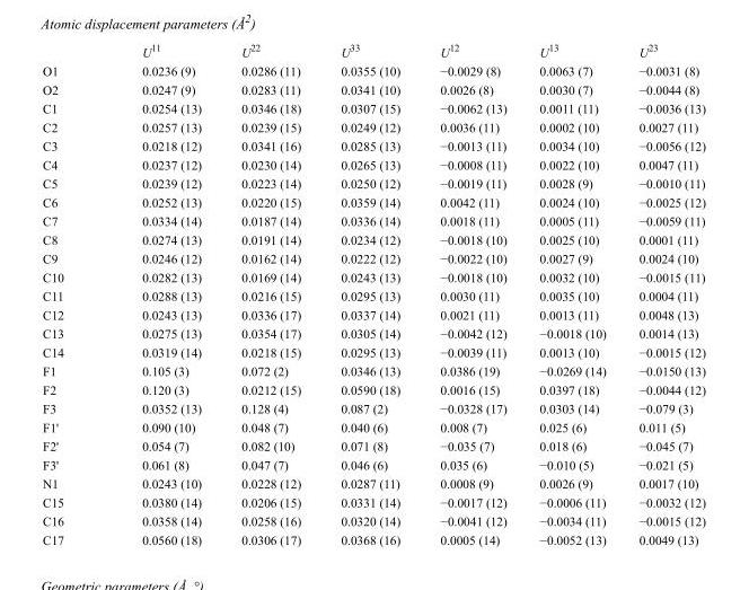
<table><thead><tr><td></td><td>U<sup>11</sup></td><td>U<sup>22</sup></td><td>U<sup>33</sup></td><td>U<sup>12</sup></td><td>U<sup>13</sup></td><td>U<sup>23</sup></td></tr></thead><tbody><tr><td>O1</td><td>0.0236 (9)</td><td>0.0286 (11)</td><td>0.0355 (10)</td><td>−0.0029 (8)</td><td>0.0063 (7)</td><td>−0.0031 (8)</td></tr><tr><td>O2</td><td>0.0247 (9)</td><td>0.0283 (11)</td><td>0.0341 (10)</td><td>0.0026 (8)</td><td>0.0030 (7)</td><td>−0.0044 (8)</td></tr><tr><td>C1</td><td>0.0254 (13)</td><td>0.0346 (18)</td><td>0.0307 (15)</td><td>−0.0062 (13)</td><td>0.0011 (11)</td><td>−0.0036 (13)</td></tr><tr><td>C2</td><td>0.0257 (13)</td><td>0.0239 (15)</td><td>0.0249 (12)</td><td>0.0036 (11)</td><td>0.0002 (10)</td><td>0.0027 (11)</td></tr><tr><td>C3</td><td>0.0218 (12)</td><td>0.0341 (16)</td><td>0.0285 (13)</td><td>−0.0013 (11)</td><td>0.0034 (10)</td><td>−0.0056 (12)</td></tr><tr><td>C4</td><td>0.0237 (12)</td><td>0.0230 (14)</td><td>0.0265 (13)</td><td>−0.0008 (11)</td><td>0.0022 (10)</td><td>0.0047 (11)</td></tr><tr><td>C5</td><td>0.0239 (12)</td><td>0.0223 (14)</td><td>0.0250 (12)</td><td>−0.0019 (11)</td><td>0.0028 (9)</td><td>−0.0010 (11)</td></tr><tr><td>C6</td><td>0.0252 (13)</td><td>0.0220 (15)</td><td>0.0359 (14)</td><td>0.0042 (11)</td><td>0.0024 (10)</td><td>−0.0025 (12)</td></tr><tr><td>C7</td><td>0.0334 (14)</td><td>0.0187 (14)</td><td>0.0336 (14)</td><td>0.0018 (11)</td><td>0.0005 (11)</td><td>−0.0059 (11)</td></tr><tr><td>C8</td><td>0.0274 (13)</td><td>0.0191 (14)</td><td>0.0234 (12)</td><td>−0.0018 (10)</td><td>0.0025 (10)</td><td>0.0001 (11)</td></tr><tr><td>C9</td><td>0.0246 (12)</td><td>0.0162 (14)</td><td>0.0222 (12)</td><td>−0.0022 (10)</td><td>0.0027 (9)</td><td>0.0024 (10)</td></tr><tr><td>C10</td><td>0.0282 (13)</td><td>0.0169 (14)</td><td>0.0243 (13)</td><td>−0.0018 (10)</td><td>0.0032 (10)</td><td>−0.0015 (11)</td></tr><tr><td>C11</td><td>0.0288 (13)</td><td>0.0216 (15)</td><td>0.0295 (13)</td><td>0.0030 (11)</td><td>0.0035 (10)</td><td>0.0004 (11)</td></tr><tr><td>C12</td><td>0.0243 (13)</td><td>0.0336 (17)</td><td>0.0337 (14)</td><td>0.0021 (11)</td><td>0.0013 (11)</td><td>0.0048 (13)</td></tr><tr><td>C13</td><td>0.0275 (13)</td><td>0.0354 (17)</td><td>0.0305 (14)</td><td>−0.0042 (12)</td><td>−0.0018 (10)</td><td>0.0014 (13)</td></tr><tr><td>C14</td><td>0.0319 (14)</td><td>0.0218 (15)</td><td>0.0295 (13)</td><td>−0.0039 (11)</td><td>0.0013 (10)</td><td>−0.0015 (12)</td></tr><tr><td>F1</td><td>0.105 (3)</td><td>0.072 (2)</td><td>0.0346 (13)</td><td>0.0386 (19)</td><td>−0.0269 (14)</td><td>−0.0150 (13)</td></tr><tr><td>F2</td><td>0.120 (3)</td><td>0.0212 (15)</td><td>0.0590 (18)</td><td>0.0016 (15)</td><td>0.0397 (18)</td><td>−0.0044 (12)</td></tr><tr><td>F3</td><td>0.0352 (13)</td><td>0.128 (4)</td><td>0.087 (2)</td><td>−0.0328 (17)</td><td>0.0303 (14)</td><td>−0.079 (3)</td></tr><tr><td>F1&#x27;</td><td>0.090 (10)</td><td>0.048 (7)</td><td>0.040 (6)</td><td>0.008 (7)</td><td>0.025 (6)</td><td>0.011 (5)</td></tr><tr><td>F2&#x27;</td><td>0.054 (7)</td><td>0.082 (10)</td><td>0.071 (8)</td><td>−0.035 (7)</td><td>0.018 (6)</td><td>−0.045 (7)</td></tr><tr><td>F3&#x27;</td><td>0.061 (8)</td><td>0.047 (7)</td><td>0.046 (6)</td><td>0.035 (6)</td><td>−0.010 (5)</td><td>−0.021 (5)</td></tr><tr><td>N1</td><td>0.0243 (10)</td><td>0.0228 (12)</td><td>0.0287 (11)</td><td>0.0008 (9)</td><td>0.0026 (9)</td><td>0.0017 (10)</td></tr><tr><td>C15</td><td>0.0380 (14)</td><td>0.0206 (15)</td><td>0.0331 (14)</td><td>−0.0017 (12)</td><td>−0.0006 (11)</td><td>−0.0032 (12)</td></tr><tr><td>C16</td><td>0.0358 (14)</td><td>0.0258 (16)</td><td>0.0320 (14)</td><td>−0.0041 (12)</td><td>−0.0034 (11)</td><td>−0.0015 (12)</td></tr><tr><td>C17</td><td>0.0560 (18)</td><td>0.0306 (17)</td><td>0.0368 (16)</td><td>0.0005 (14)</td><td>−0.0052 (13)</td><td>0.0049 (13)</td></tr></tbody></table>